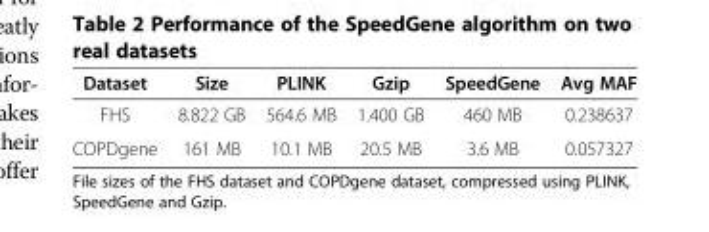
<table><thead><tr><td>Dataset</td><td>Size</td><td>PLINK</td><td>Gzip</td><td>SpeedGene</td><td>Avg MAF</td></tr></thead><tbody><tr><td>FHS</td><td>8.822 GB</td><td>564.6 MB</td><td>1.400 GB</td><td>460 MB</td><td>0.238637</td></tr><tr><td>COPDgene</td><td>161 MB</td><td>10.1 MB</td><td>20.5 MB</td><td>3.6 MB</td><td>0.057327</td></tr></tbody></table>